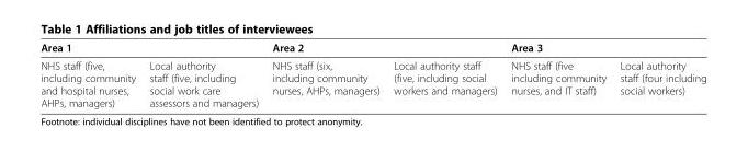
<table><thead><tr><td colspan="2">Area 1</td><td colspan="2">Area 2</td><td colspan="2">Area 3</td></tr><tr><td>NHS staff (five, including community and hospital nurses, AHPs, managers)</td><td>Local authority staff (five, including social work care assessors and managers)</td><td>NHS staff (six, including community nurses, AHPs, managers)</td><td>Local authority staff (five, including social workers and managers)</td><td>NHS staff (five including community nurses, and IT staff)</td><td>Local authority staff (four including social workers)</td></tr></thead><tbody></tbody></table>